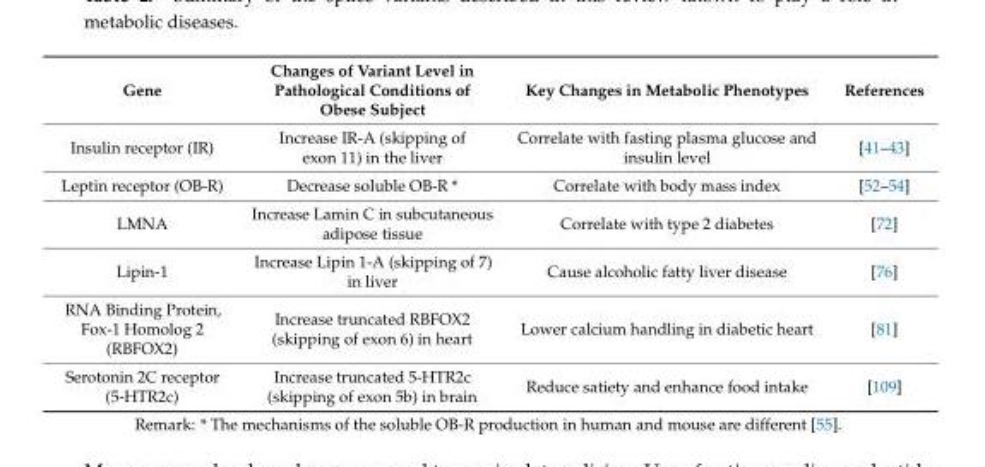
<table><thead><tr><td>Gene</td><td>Changes of Variant Level in Pathological Conditions of Obese Subject</td><td>Key Changes in Metabolic Phenotypes</td><td>References</td></tr></thead><tbody><tr><td>Insulin receptor (IR)</td><td>Increase IR-A (skipping of exon 11) in the liver</td><td>Correlate with fasting plasma glucose and insulin level</td><td>[41–43]</td></tr><tr><td>Leptin receptor (OB-R)</td><td>Decrease soluble OB-R *</td><td>Correlate with body mass index</td><td>[52–54]</td></tr><tr><td>LMNA</td><td>Increase Lamin C in subcutaneous adipose tissue</td><td>Correlate with type 2 diabetes</td><td>[72]</td></tr><tr><td>Lipin-1</td><td>Increase Lipin 1-A (skipping of 7) in liver</td><td>Cause alcoholic fatty liver disease</td><td>[76]</td></tr><tr><td>RNA Binding Protein, Fox-1 Homolog 2 (RBFOX2)</td><td>Increase truncated RBFOX2 (skipping of exon 6) in heart</td><td>Lower calcium handling in diabetic heart</td><td>[81]</td></tr><tr><td>Serotonin 2C receptor (5-HTR2c)</td><td>Increase truncated 5-HTR2c (skipping of exon 5b) in brain</td><td>Reduce satiety and enhance food intake</td><td>[109]</td></tr></tbody></table>